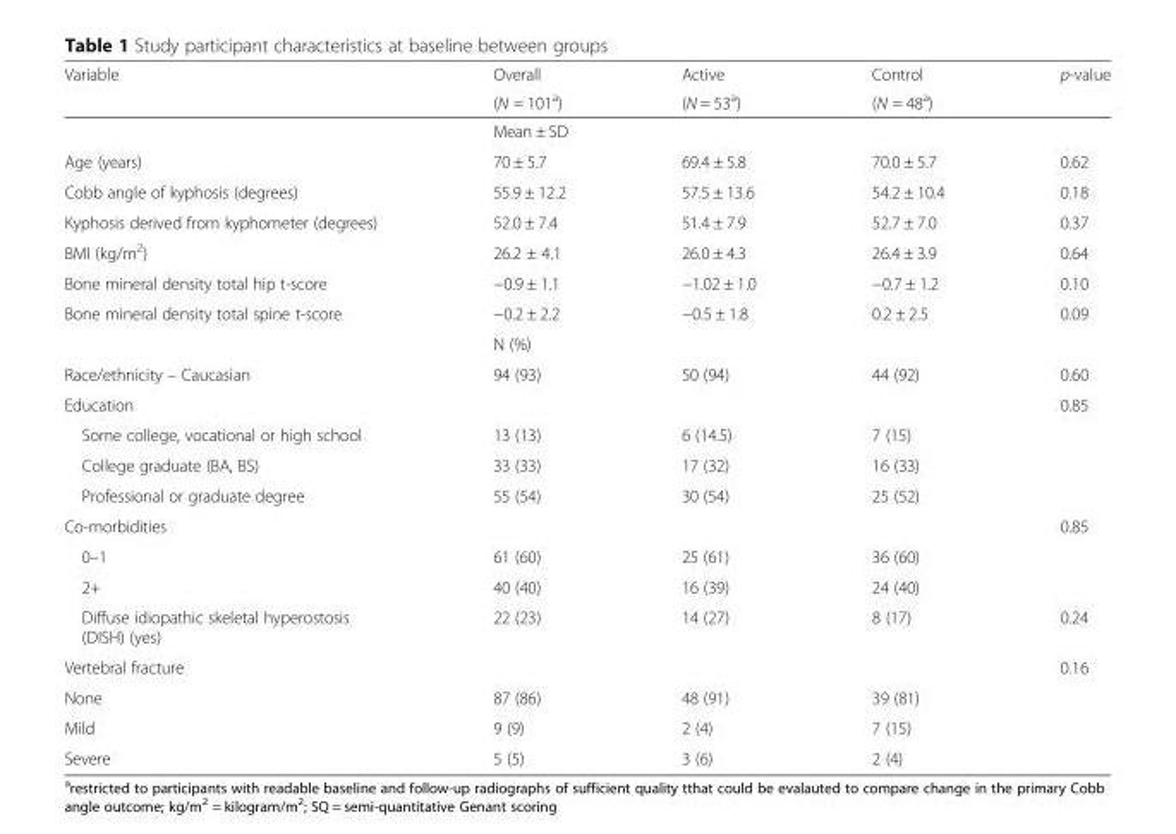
<table><thead><tr><td rowspan="2">Variable</td><td rowspan="2">Overall (N = 101<sup>a</sup>)</td><td rowspan="2">Active (N = 53<sup>a</sup>)</td><td rowspan="2">Control (N = 48<sup>a</sup>)</td><td rowspan="2">p-value</td></tr><tr></tr></thead><tbody><tr><td></td><td colspan="4">Mean ± SD</td></tr><tr><td>Age (years)</td><td>70 ± 5.7</td><td>69.4 ± 5.8</td><td>70.0 ± 5.7</td><td>0.62</td></tr><tr><td>Cobb angle of kyphosis (degrees)</td><td>55.9 ± 12.2</td><td>57.5 ± 13.6</td><td>54.2 ± 10.4</td><td>0.18</td></tr><tr><td>Kyphosis derived from kyphometer (degrees)</td><td>52.0 ± 7.4</td><td>51.4 ± 7.9</td><td>52.7 ± 7.0</td><td>0.37</td></tr><tr><td>BMI (kg/m<sup>2</sup>)</td><td>26.2 ± 4.1</td><td>26.0 ± 4.3</td><td>26.4 ± 3.9</td><td>0.64</td></tr><tr><td>Bone mineral density total hip t-score</td><td>−0.9 ± 1.1</td><td>−1.02 ± 1.0</td><td>−0.7 ± 1.2</td><td>0.10</td></tr><tr><td rowspan="2">Bone mineral density total spine t-score</td><td>−0.2 ± 2.2</td><td>−0.5 ± 1.8</td><td>0.2 ± 2.5</td><td>0.09</td></tr><tr><td colspan="4">N (%)</td></tr><tr><td>Race/ethnicity – Caucasian</td><td>94 (93)</td><td>50 (94)</td><td>44 (92)</td><td>0.60</td></tr><tr><td>Education</td><td></td><td></td><td></td><td>0.85</td></tr><tr><td>Some college, vocational or high school</td><td>13 (13)</td><td>6 (14.5)</td><td>7 (15)</td><td></td></tr><tr><td>College graduate (BA, BS)</td><td>33 (33)</td><td>17 (32)</td><td>16 (33)</td><td></td></tr><tr><td>Professional or graduate degree</td><td>55 (54)</td><td>30 (54)</td><td>25 (52)</td><td></td></tr><tr><td>Co-morbidities</td><td></td><td></td><td></td><td>0.85</td></tr><tr><td>0–1</td><td>61 (60)</td><td>25 (61)</td><td>36 (60)</td><td></td></tr><tr><td>2+</td><td>40 (40)</td><td>16 (39)</td><td>24 (40)</td><td></td></tr><tr><td>Diffuse idiopathic skeletal hyperostosis (DISH) (yes)</td><td>22 (23)</td><td>14 (27)</td><td>8 (17)</td><td>0.24</td></tr><tr><td>Vertebral fracture</td><td></td><td></td><td></td><td>0.16</td></tr><tr><td>None</td><td>87 (86)</td><td>48 (91)</td><td>39 (81)</td><td></td></tr><tr><td>Mild</td><td>9 (9)</td><td>2 (4)</td><td>7 (15)</td><td></td></tr><tr><td>Severe</td><td>5 (5)</td><td>3 (6)</td><td>2 (4)</td><td></td></tr></tbody></table>